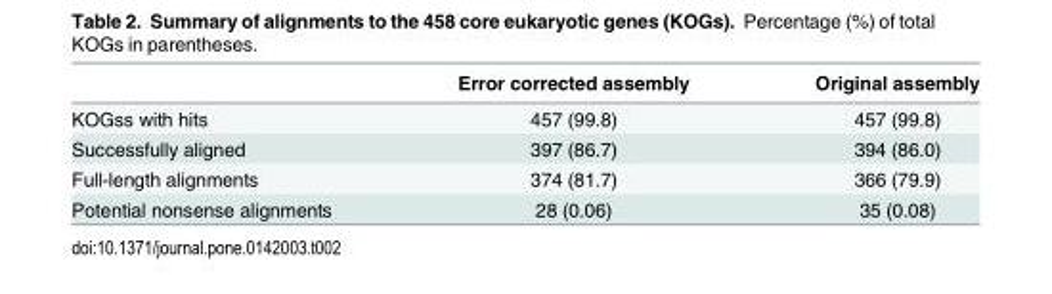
<table><thead><tr><td></td><td>Error corrected assembly</td><td>Original assembly</td></tr></thead><tbody><tr><td>KOGss with hits</td><td>457 (99.8)</td><td>457 (99.8)</td></tr><tr><td>Successfully aligned</td><td>397 (86.7)</td><td>394 (86.0)</td></tr><tr><td>Full-length alignments</td><td>374 (81.7)</td><td>366 (79.9)</td></tr><tr><td>Potential nonsense alignments</td><td>28 (0.06)</td><td>35 (0.08)</td></tr></tbody></table>